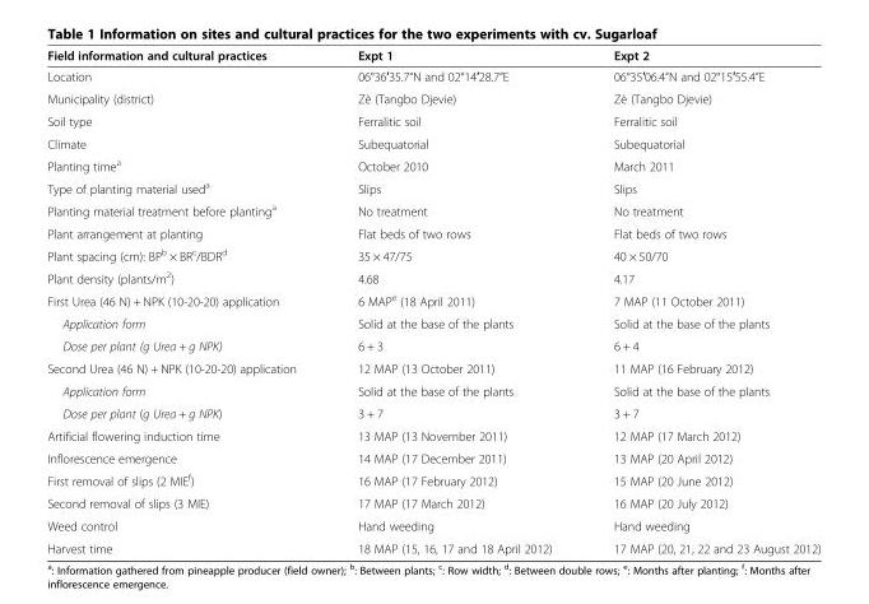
<table><thead><tr><td>Field information and cultural practices</td><td>Expt 1</td><td>Expt 2</td></tr></thead><tbody><tr><td>Location</td><td>06°36′35.7“N and 02°14′28.7”E</td><td>06°35′06.4“N and 02°15′55.4”E</td></tr><tr><td>Municipality (district)</td><td>Zè (Tangbo Djevie)</td><td>Zè (Tangbo Djevie)</td></tr><tr><td>Soil type</td><td>Ferralitic soil</td><td>Ferralitic soil</td></tr><tr><td>Climate</td><td>Subequatorial</td><td>Subequatorial</td></tr><tr><td>Planting time<sup>a</sup></td><td>October 2010</td><td>March 2011</td></tr><tr><td>Type of planting material used<sup>a</sup></td><td>Slips</td><td>Slips</td></tr><tr><td>Planting material treatment before planting<sup>a</sup></td><td>No treatment</td><td>No treatment</td></tr><tr><td>Plant arrangement at planting</td><td>Flat beds of two rows</td><td>Flat beds of two rows</td></tr><tr><td>Plant spacing (cm): BP<sup>b</sup> × BR<sup>c</sup>/BDR<sup>d</sup></td><td>35 × 47/75</td><td>40 × 50/70</td></tr><tr><td>Plant density (plants/m<sup>2</sup>)</td><td>4.68</td><td>4.17</td></tr><tr><td>First Urea (46 N) + NPK (10-20-20) application</td><td>6 MAP<sup>e</sup> (18 April 2011)</td><td>7 MAP (11 October 2011)</td></tr><tr><td>Application form</td><td>Solid at the base of the plants</td><td>Solid at the base of the plants</td></tr><tr><td>Dose per plant (g Urea + g NPK)</td><td>6 + 3</td><td>6 + 4</td></tr><tr><td>Second Urea (46 N) + NPK (10-20-20) application</td><td>12 MAP (13 October 2011)</td><td>11 MAP (16 February 2012)</td></tr><tr><td>Application form</td><td>Solid at the base of the plants</td><td>Solid at the base of the plants</td></tr><tr><td>Dose per plant (g Urea + g NPK)</td><td>3 + 7</td><td>3 + 7</td></tr><tr><td>Artificial flowering induction time</td><td>13 MAP (13 November 2011)</td><td>12 MAP (17 March 2012)</td></tr><tr><td>Inflorescence emergence</td><td>14 MAP (17 December 2011)</td><td>13 MAP (20 April 2012)</td></tr><tr><td>First removal of slips (2 MIE<sup>f</sup>)</td><td>16 MAP (17 February 2012)</td><td>15 MAP (20 June 2012)</td></tr><tr><td>Second removal of slips (3 MIE)</td><td>17 MAP (17 March 2012)</td><td>16 MAP (20 July 2012)</td></tr><tr><td>Weed control</td><td>Hand weeding</td><td>Hand weeding</td></tr><tr><td>Harvest time</td><td>18 MAP (15, 16, 17 and 18 April 2012)</td><td>17 MAP (20, 21, 22 and 23 August 2012)</td></tr></tbody></table>